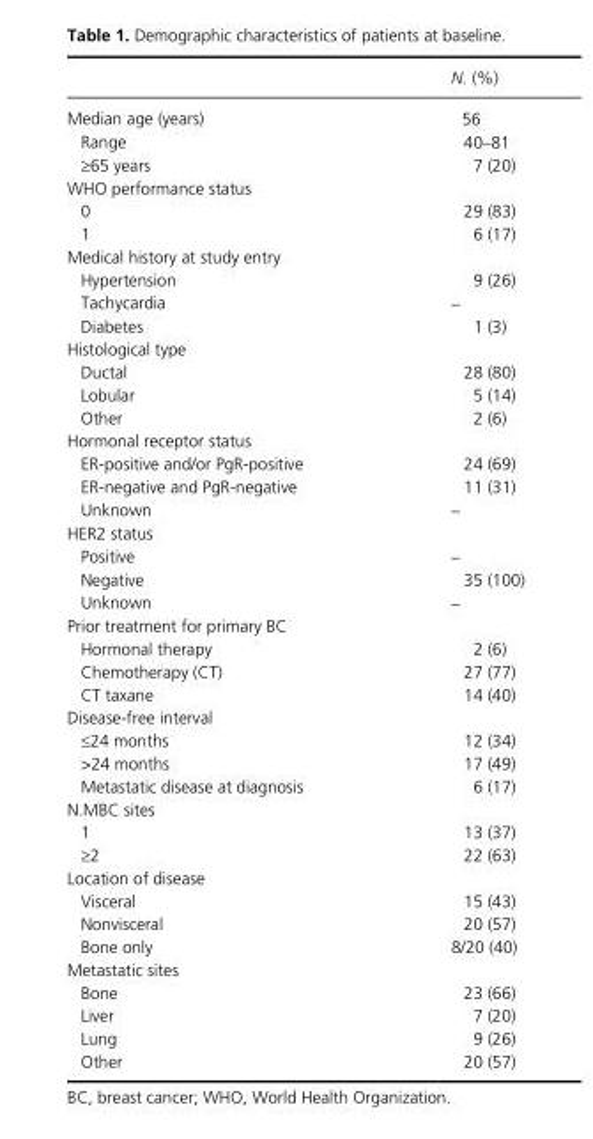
<table><thead><tr><td></td><td>N. (%)</td></tr></thead><tbody><tr><td>Median age (years)</td><td>56</td></tr><tr><td>Range</td><td>40–81</td></tr><tr><td>≥65 years</td><td>7 (20)</td></tr><tr><td colspan="2">WHO performance status</td></tr><tr><td>0</td><td>29 (83)</td></tr><tr><td>1</td><td>6 (17)</td></tr><tr><td colspan="2">Medical history at study entry</td></tr><tr><td>Hypertension</td><td>9 (26)</td></tr><tr><td>Tachycardia</td><td>–</td></tr><tr><td>Diabetes</td><td>1 (3)</td></tr><tr><td colspan="2">Histological type</td></tr><tr><td>Ductal</td><td>28 (80)</td></tr><tr><td>Lobular</td><td>5 (14)</td></tr><tr><td>Other</td><td>2 (6)</td></tr><tr><td colspan="2">Hormonal receptor status</td></tr><tr><td>ER- positive and/or PgR- positive</td><td>24 (69)</td></tr><tr><td>ER- negative and PgR- negative</td><td>11 (31)</td></tr><tr><td>Unknown</td><td>–</td></tr><tr><td colspan="2">HER2 status</td></tr><tr><td>Positive</td><td>–</td></tr><tr><td>Negative</td><td>35 (100)</td></tr><tr><td>Unknown</td><td>–</td></tr><tr><td colspan="2">Prior treatment for primary BC</td></tr><tr><td>Hormonal therapy</td><td>2 (6)</td></tr><tr><td>Chemotherapy (CT)</td><td>27 (77)</td></tr><tr><td>CT taxane</td><td>14 (40)</td></tr><tr><td colspan="2">Disease- free interval</td></tr><tr><td>≤24 months</td><td>12 (34)</td></tr><tr><td>&gt;24 months</td><td>17 (49)</td></tr><tr><td>Metastatic disease at diagnosis</td><td>6 (17)</td></tr><tr><td colspan="2">N.MBC sites</td></tr><tr><td>1</td><td>13 (37)</td></tr><tr><td>≥2</td><td>22 (63)</td></tr><tr><td colspan="2">Location of disease</td></tr><tr><td>Visceral</td><td>15 (43)</td></tr><tr><td>Nonvisceral</td><td>20 (57)</td></tr><tr><td>Bone only</td><td>8/20 (40)</td></tr><tr><td colspan="2">Metastatic sites</td></tr><tr><td>Bone</td><td>23 (66)</td></tr><tr><td>Liver</td><td>7 (20)</td></tr><tr><td>Lung</td><td>9 (26)</td></tr><tr><td>Other</td><td>20 (57)</td></tr></tbody></table>